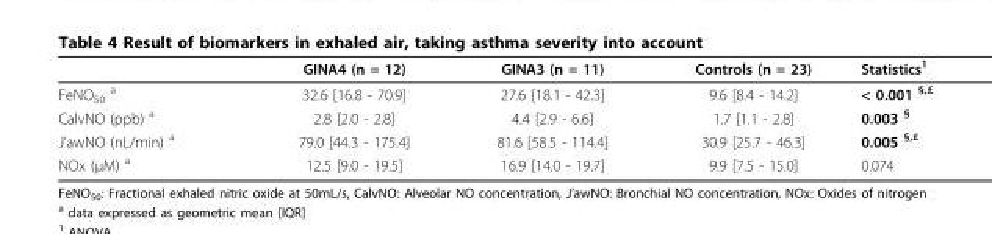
<table><thead><tr><td></td><td>GINA4 (n = 12)</td><td>GINA3 (n = 11)</td><td>Controls (n = 23)</td><td>Statistics<sup>1</sup></td></tr></thead><tbody><tr><td>FeNO<sub>50</sub> <sup>a</sup></td><td>32.6 [16.8 - 70.9]</td><td>27.6 [18.1 - 42.3]</td><td>9.6 [8.4 - 14.2]</td><td>&lt; 0.001 <sup>§,£</sup></td></tr><tr><td>CalvNO (ppb) <sup>a</sup></td><td>2.8 [2.0 - 2.8]</td><td>4.4 [2.9 - 6.6]</td><td>1.7 [1.1 - 2.8]</td><td>0.003 <sup>§</sup></td></tr><tr><td>J’awNO (nL/min) <sup>a</sup></td><td>79.0 [44.3 - 175.4]</td><td>81.6 [58.5 - 114.4]</td><td>30.9 [25.7 - 46.3]</td><td>0.005 <sup>§,£</sup></td></tr><tr><td>NOx (μM) <sup>a</sup></td><td>12.5 [9.0 - 19.5]</td><td>16.9 [14.0 - 19.7]</td><td>9.9 [7.5 - 15.0]</td><td>0.074</td></tr></tbody></table>